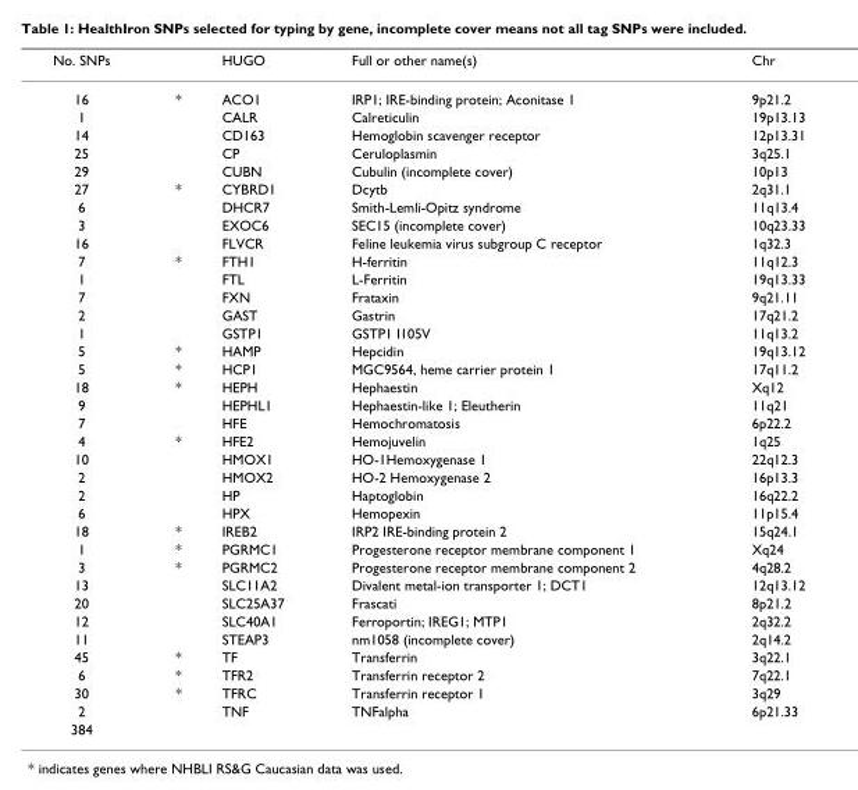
<table><thead><tr><td>No. SNPs</td><td></td><td>HUGO</td><td>Full or other name(s)</td><td>Chr</td></tr></thead><tbody><tr><td>16</td><td>*</td><td>ACO1</td><td>IRP1; IRE-binding protein; Aconitase 1</td><td>9p21.2</td></tr><tr><td>1</td><td></td><td>CALR</td><td>Calreticulin</td><td>19p13.13</td></tr><tr><td>14</td><td></td><td>CD163</td><td>Hemoglobin scavenger receptor</td><td>12p13.31</td></tr><tr><td>25</td><td></td><td>CP</td><td>Ceruloplasmin</td><td>3q25.1</td></tr><tr><td>29</td><td></td><td>CUBN</td><td>Cubulin (incomplete cover)</td><td>10p13</td></tr><tr><td>27</td><td>*</td><td>CYBRD1</td><td>Dcytb</td><td>2q31.1</td></tr><tr><td>6</td><td></td><td>DHCR7</td><td>Smith-Lemli-Opitz syndrome</td><td>11q13.4</td></tr><tr><td>3</td><td></td><td>EXOC6</td><td>SEC15 (incomplete cover)</td><td>10q23.33</td></tr><tr><td>16</td><td></td><td>FLVCR</td><td>Feline leukemia virus subgroup C receptor</td><td>1q32.3</td></tr><tr><td>7</td><td>*</td><td>FTH1</td><td>H-ferritin</td><td>11q12.3</td></tr><tr><td>1</td><td></td><td>FTL</td><td>L-Ferritin</td><td>19q13.33</td></tr><tr><td>7</td><td></td><td>FXN</td><td>Frataxin</td><td>9q21.11</td></tr><tr><td>2</td><td></td><td>GAST</td><td>Gastrin</td><td>17q21.2</td></tr><tr><td>1</td><td></td><td>GSTP1</td><td>GSTP1 I105V</td><td>11q13.2</td></tr><tr><td>5</td><td>*</td><td>HAMP</td><td>Hepcidin</td><td>19q13.12</td></tr><tr><td>5</td><td>*</td><td>HCP1</td><td>MGC9564, heme carrier protein 1</td><td>17q11.2</td></tr><tr><td>18</td><td>*</td><td>HEPH</td><td>Hephaestin</td><td>Xq12</td></tr><tr><td>9</td><td></td><td>HEPHL1</td><td>Hephaestin-like 1; Eleutherin</td><td>11q21</td></tr><tr><td>7</td><td></td><td>HFE</td><td>Hemochromatosis</td><td>6p22.2</td></tr><tr><td>4</td><td>*</td><td>HFE2</td><td>Hemojuvelin</td><td>1q25</td></tr><tr><td>10</td><td></td><td>HMOX1</td><td>HO-1Hemoxygenase 1</td><td>22q12.3</td></tr><tr><td>2</td><td></td><td>HMOX2</td><td>HO-2 Hemoxygenase 2</td><td>16p13.3</td></tr><tr><td>2</td><td></td><td>HP</td><td>Haptoglobin</td><td>16q22.2</td></tr><tr><td>6</td><td></td><td>HPX</td><td>Hemopexin</td><td>11p15.4</td></tr><tr><td>18</td><td>*</td><td>IREB2</td><td>IRP2 IRE-binding protein 2</td><td>15q24.1</td></tr><tr><td>1</td><td>*</td><td>PGRMC1</td><td>Progesterone receptor membrane component 1</td><td>Xq24</td></tr><tr><td>3</td><td>*</td><td>PGRMC2</td><td>Progesterone receptor membrane component 2</td><td>4q28.2</td></tr><tr><td>13</td><td></td><td>SLC11A2</td><td>Divalent metal-ion transporter 1; DCT1</td><td>12q13.12</td></tr><tr><td>20</td><td></td><td>SLC25A37</td><td>Frascati</td><td>8p21.2</td></tr><tr><td>12</td><td></td><td>SLC40A1</td><td>Ferroportin; IREG1; MTP1</td><td>2q32.2</td></tr><tr><td>11</td><td></td><td>STEAP3</td><td>nm1058 (incomplete cover)</td><td>2q14.2</td></tr><tr><td>45</td><td>*</td><td>TF</td><td>Transferrin</td><td>3q22.1</td></tr><tr><td>6</td><td>*</td><td>TFR2</td><td>Transferrin receptor 2</td><td>7q22.1</td></tr><tr><td>30</td><td>*</td><td>TFRC</td><td>Transferrin receptor 1</td><td>3q29</td></tr><tr><td>2</td><td></td><td>TNF</td><td>TNFalpha</td><td>6p21.33</td></tr><tr><td>384</td><td></td><td></td><td></td><td></td></tr></tbody></table>